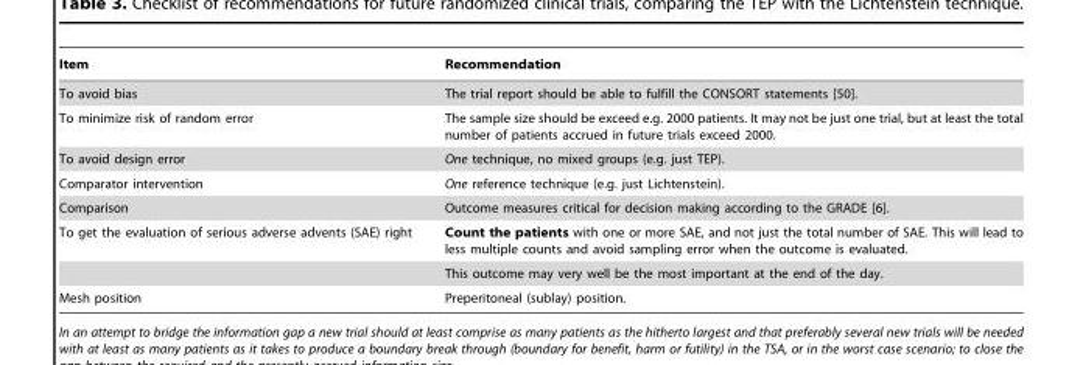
<table><thead><tr><td>Item</td><td>Recommendation</td></tr></thead><tbody><tr><td>To avoid bias</td><td>The trial report should be able to fulfill the CONSORT statements [50].</td></tr><tr><td>To minimize risk of random error</td><td>The sample size should be exceed e.g. 2000 patients. It may not be just one trial, but at least the total number of patients accrued in future trials exceed 2000.</td></tr><tr><td>To avoid design error</td><td>One technique, no mixed groups (e.g. just TEP).</td></tr><tr><td>Comparator intervention</td><td>One reference technique (e.g. just Lichtenstein).</td></tr><tr><td>Comparison</td><td>Outcome measures critical for decision making according to the GRADE [6].</td></tr><tr><td rowspan="2">To get the evaluation of serious adverse advents (SAE) right</td><td>Count the patients with one or more SAE, and not just the total number of SAE. This will lead to less multiple counts and avoid sampling error when the outcome is evaluated.</td></tr><tr><td>This outcome may very well be the most important at the end of the day.</td></tr><tr><td>Mesh position</td><td>Preperitoneal (sublay) position.</td></tr></tbody></table>